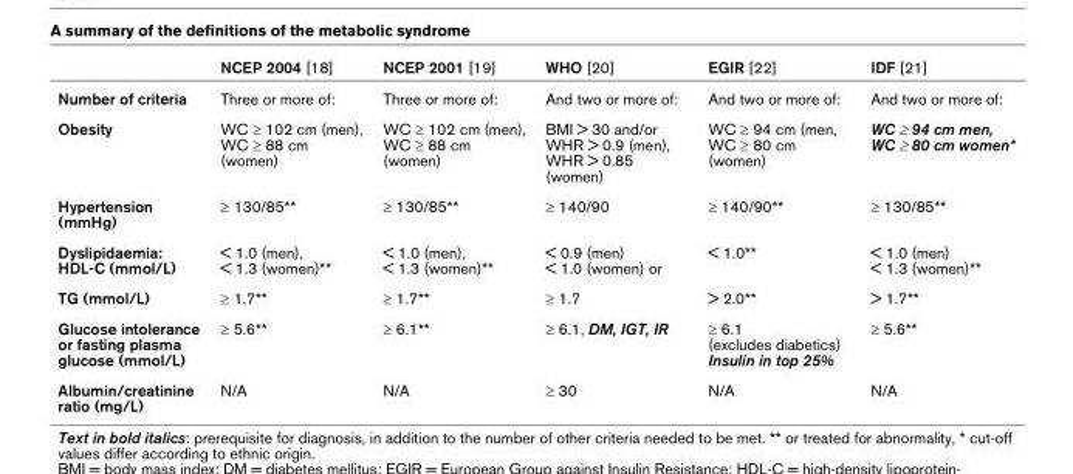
<table><thead><tr><td></td><td>NCEP 2004 [18]</td><td>NCEP 2001 [19]</td><td>WHO [20]</td><td>EGIR [22]</td><td>IDF [21]</td></tr></thead><tbody><tr><td>Number of criteria</td><td>Three or more of:</td><td>Three or more of:</td><td>And two or more of:</td><td>And two or more of:</td><td>And two or more of:</td></tr><tr><td>Obesity</td><td>WC ≥ 102 cm (men), WC ≥ 88 cm (women)</td><td>WC ≥ 102 cm (men), WC ≥ 88 cm (women)</td><td>BMI &gt; 30 and/or WHR &gt; 0.9 (men), WHR &gt; 0.85 (women)</td><td>WC ≥ 94 cm (men, WC ≥ 80 cm (women)</td><td>WC ≥ 94 cm men, WC ≥ 80 cm women*</td></tr><tr><td>Hypertension (mmHg)</td><td>≥ 130/85**</td><td>≥ 130/85**</td><td>≥ 140/90</td><td>≥ 140/90**</td><td>≥ 130/85**</td></tr><tr><td>Dyslipidaemia: HDL-C (mmol/L)</td><td>&lt; 1.0 (men), &lt; 1.3 (women)**</td><td>&lt; 1.0 (men), &lt; 1.3 (women)**</td><td>&lt; 0.9 (men) &lt; 1.0 (women) or</td><td>&lt; 1.0**</td><td>&lt; 1.0 (men) &lt; 1.3 (women)**</td></tr><tr><td>TG (mmol/L)</td><td>≥ 1.7**</td><td>≥ 1.7**</td><td>≥ 1.7</td><td>&gt; 2.0**</td><td>&gt; 1.7**</td></tr><tr><td>Glucose intolerance or fasting plasma glucose (mmol/L)</td><td>≥ 5.6**</td><td>≥ 6.1**</td><td>≥ 6.1, DM, IGT, IR</td><td>≥ 6.1 (excludes diabetics) Insulin in top 25%</td><td>≥ 5.6**</td></tr><tr><td>Albumin/creatinine ratio (mg/L)</td><td>N/A</td><td>N/A</td><td>≥ 30</td><td>N/A</td><td>N/A</td></tr></tbody></table>